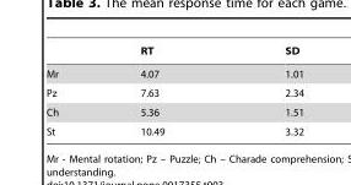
<table><thead><tr><td></td><td>RT</td><td>SD</td></tr></thead><tbody><tr><td>Mr</td><td>4.07</td><td>1.01</td></tr><tr><td>Pz</td><td>7.63</td><td>2.34</td></tr><tr><td>Ch</td><td>5.36</td><td>1.51</td></tr><tr><td>St</td><td>10.49</td><td>3.32</td></tr></tbody></table>